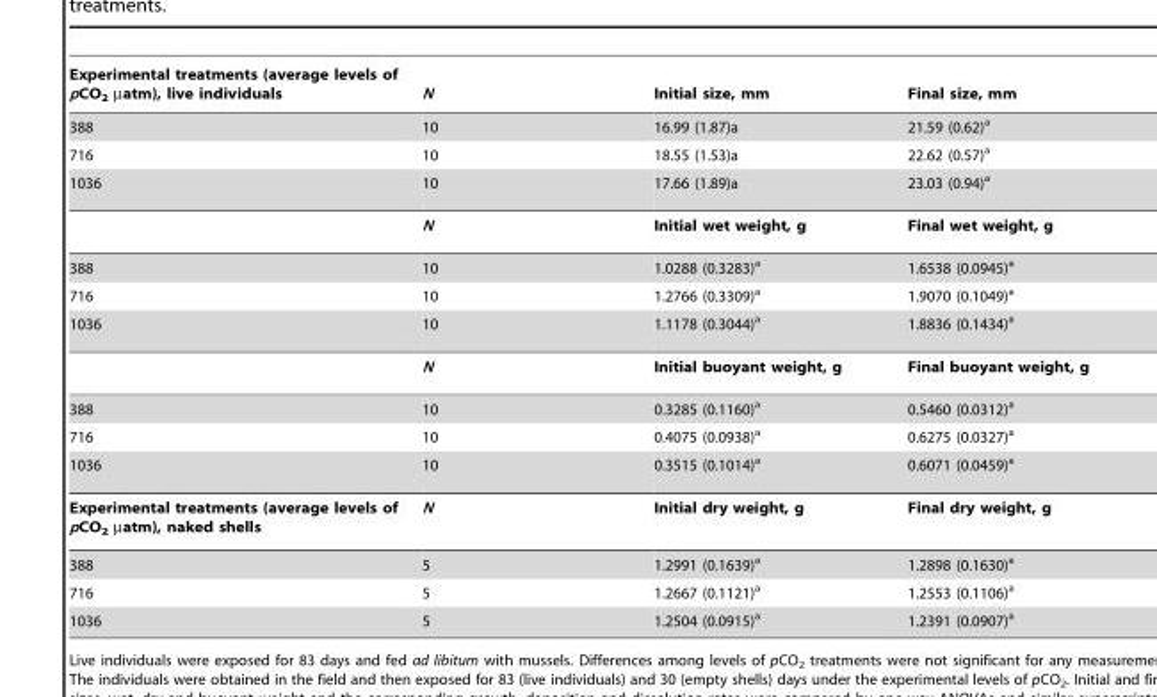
<table><thead><tr><td>Experimental treatments (average levels of pCO<sub>2</sub> µatm), live individuals</td><td>N</td><td>Initial size, mm</td><td>Final size, mm</td></tr></thead><tbody><tr><td>388</td><td>10</td><td>16.99 (1.87)a</td><td>21.59 (0.62)<sup>a</sup></td></tr><tr><td>716</td><td>10</td><td>18.55 (1.53)a</td><td>22.62 (0.57)<sup>a</sup></td></tr><tr><td rowspan="2">1036</td><td>10</td><td>17.66 (1.89)a</td><td>23.03 (0.94)<sup>a</sup></td></tr><tr><td>N</td><td>Initial wet weight, g</td><td>Final wet weight, g</td></tr><tr><td>388</td><td>10</td><td>1.0288 (0.3283)<sup>a</sup></td><td>1.6538 (0.0945)<sup>a</sup></td></tr><tr><td>716</td><td>10</td><td>1.2766 (0.3309)<sup>a</sup></td><td>1.9070 (0.1049)<sup>a</sup></td></tr><tr><td rowspan="2">1036</td><td>10</td><td>1.1178 (0.3044)<sup>a</sup></td><td>1.8836 (0.1434)<sup>a</sup></td></tr><tr><td>N</td><td>Initial buoyant weight, g</td><td>Final buoyant weight, g</td></tr><tr><td>388</td><td>10</td><td>0.3285 (0.1160)<sup>a</sup></td><td>0.5460 (0.0312)<sup>a</sup></td></tr><tr><td>716</td><td>10</td><td>0.4075 (0.0938)<sup>a</sup></td><td>0.6275 (0.0327)<sup>a</sup></td></tr><tr><td>1036</td><td>10</td><td>0.3515 (0.1014)<sup>a</sup></td><td>0.6071 (0.0459)<sup>a</sup></td></tr><tr><td>Experimental treatments (average levels of pCO<sub>2</sub> µatm), naked shells</td><td>N</td><td>Initial dry weight, g</td><td>Final dry weight, g</td></tr><tr><td>388</td><td>5</td><td>1.2991 (0.1639)<sup>a</sup></td><td>1.2898 (0.1630)<sup>a</sup></td></tr><tr><td>716</td><td>5</td><td>1.2667 (0.1121)<sup>a</sup></td><td>1.2553 (0.1106)<sup>a</sup></td></tr><tr><td>1036</td><td>5</td><td>1.2504 (0.0915)<sup>a</sup></td><td>1.2391 (0.0907)<sup>a</sup></td></tr></tbody></table>